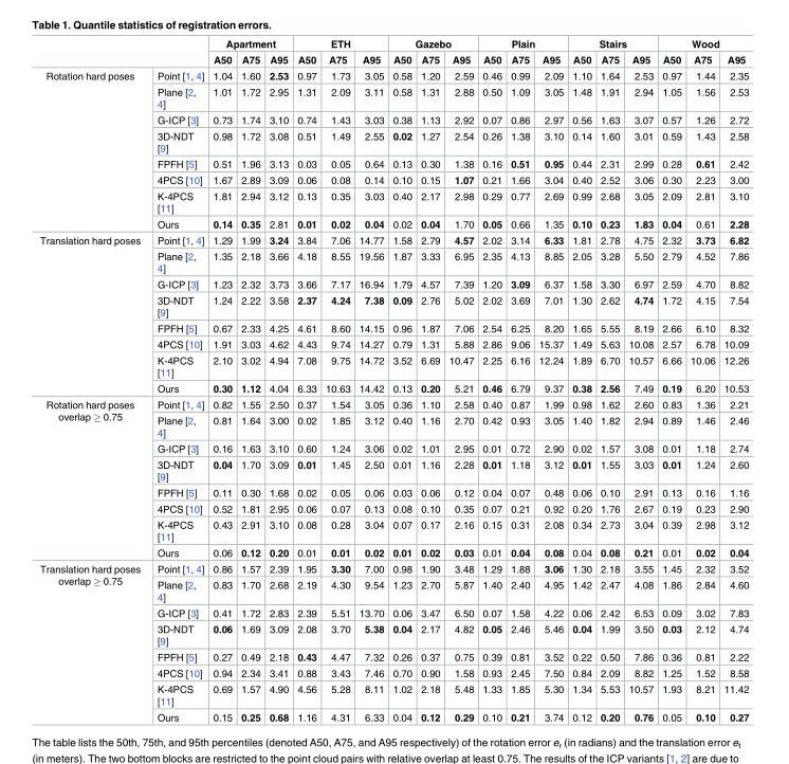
<table><thead><tr><td rowspan="2"></td><td rowspan="2"></td><td colspan="3">Apartment</td><td colspan="3">ETH</td><td colspan="3">Gazebo</td><td colspan="3">Plain</td><td colspan="3">Stairs</td><td colspan="3">Wood</td></tr><tr><td>A50</td><td>A75</td><td>A95</td><td>A50</td><td>A75</td><td>A95</td><td>A50</td><td>A75</td><td>A95</td><td>A50</td><td>A75</td><td>A95</td><td>A50</td><td>A75</td><td>A95</td><td>A50</td><td>A75</td><td>A95</td></tr></thead><tbody><tr><td rowspan="8">Rotation hard poses</td><td>Point [1, 4]</td><td>1.04</td><td>1.60</td><td>2.53</td><td>0.97</td><td>1.73</td><td>3.05</td><td>0.58</td><td>1.20</td><td>2.59</td><td>0.46</td><td>0.99</td><td>2.09</td><td>1.10</td><td>1.64</td><td>2.53</td><td>0.97</td><td>1.44</td><td>2.35</td></tr><tr><td>Plane [2, 4]</td><td>1.01</td><td>1.72</td><td>2.95</td><td>1.31</td><td>2.09</td><td>3.11</td><td>0.58</td><td>1.31</td><td>2.88</td><td>0.50</td><td>1.09</td><td>3.05</td><td>1.48</td><td>1.91</td><td>2.94</td><td>1.05</td><td>1.56</td><td>2.53</td></tr><tr><td>G-ICP [3]</td><td>0.73</td><td>1.74</td><td>3.10</td><td>0.74</td><td>1.43</td><td>3.03</td><td>0.38</td><td>1.13</td><td>2.92</td><td>0.07</td><td>0.86</td><td>2.97</td><td>0.56</td><td>1.63</td><td>3.07</td><td>0.57</td><td>1.26</td><td>2.72</td></tr><tr><td>3D-NDT [9]</td><td>0.98</td><td>1.72</td><td>3.08</td><td>0.51</td><td>1.49</td><td>2.55</td><td>0.02</td><td>1.27</td><td>2.54</td><td>0.26</td><td>1.38</td><td>3.10</td><td>0.14</td><td>1.60</td><td>3.01</td><td>0.59</td><td>1.43</td><td>2.58</td></tr><tr><td>FPFH [5]</td><td>0.51</td><td>1.96</td><td>3.13</td><td>0.03</td><td>0.05</td><td>0.64</td><td>0.13</td><td>0.30</td><td>1.38</td><td>0.16</td><td>0.51</td><td>0.95</td><td>0.44</td><td>2.31</td><td>2.99</td><td>0.28</td><td>0.61</td><td>2.42</td></tr><tr><td>4PCS [10]</td><td>1.67</td><td>2.89</td><td>3.09</td><td>0.06</td><td>0.08</td><td>0.14</td><td>0.10</td><td>0.15</td><td>1.07</td><td>0.21</td><td>1.66</td><td>3.04</td><td>0.40</td><td>2.52</td><td>3.06</td><td>0.30</td><td>2.23</td><td>3.00</td></tr><tr><td>K-4PCS [11]</td><td>1.81</td><td>2.94</td><td>3.12</td><td>0.13</td><td>0.35</td><td>3.03</td><td>0.40</td><td>2.17</td><td>2.98</td><td>0.29</td><td>0.77</td><td>2.69</td><td>0.99</td><td>2.68</td><td>3.05</td><td>2.09</td><td>2.81</td><td>3.10</td></tr><tr><td>Ours</td><td>0.14</td><td>0.35</td><td>2.81</td><td>0.01</td><td>0.02</td><td>0.04</td><td>0.02</td><td>0.04</td><td>1.70</td><td>0.05</td><td>0.66</td><td>1.35</td><td>0.10</td><td>0.23</td><td>1.83</td><td>0.04</td><td>0.61</td><td>2.28</td></tr><tr><td rowspan="8">Translation hard poses</td><td>Point [1, 4]</td><td>1.29</td><td>1.99</td><td>3.24</td><td>3.84</td><td>7.06</td><td>14.77</td><td>1.58</td><td>2.79</td><td>4.57</td><td>2.02</td><td>3.14</td><td>6.33</td><td>1.81</td><td>2.78</td><td>4.75</td><td>2.32</td><td>3.73</td><td>6.82</td></tr><tr><td>Plane [2, 4]</td><td>1.35</td><td>2.18</td><td>3.66</td><td>4.18</td><td>8.55</td><td>19.56</td><td>1.87</td><td>3.33</td><td>6.95</td><td>2.35</td><td>4.13</td><td>8.85</td><td>2.05</td><td>3.28</td><td>5.50</td><td>2.79</td><td>4.52</td><td>7.86</td></tr><tr><td>G-ICP [3]</td><td>1.23</td><td>2.32</td><td>3.73</td><td>3.66</td><td>7.17</td><td>16.94</td><td>1.79</td><td>4.57</td><td>7.39</td><td>1.20</td><td>3.09</td><td>6.37</td><td>1.58</td><td>3.30</td><td>6.97</td><td>2.59</td><td>4.70</td><td>8.82</td></tr><tr><td>3D-NDT [9]</td><td>1.24</td><td>2.22</td><td>3.58</td><td>2.37</td><td>4.24</td><td>7.38</td><td>0.09</td><td>2.76</td><td>5.02</td><td>2.02</td><td>3.69</td><td>7.01</td><td>1.30</td><td>2.62</td><td>4.74</td><td>1.72</td><td>4.15</td><td>7.54</td></tr><tr><td>FPFH [5]</td><td>0.67</td><td>2.33</td><td>4.25</td><td>4.61</td><td>8.60</td><td>14.15</td><td>0.96</td><td>1.87</td><td>7.06</td><td>2.54</td><td>6.25</td><td>8.20</td><td>1.65</td><td>5.55</td><td>8.19</td><td>2.66</td><td>6.10</td><td>8.32</td></tr><tr><td>4PCS [10]</td><td>1.91</td><td>3.03</td><td>4.62</td><td>4.43</td><td>9.74</td><td>14.27</td><td>0.79</td><td>1.31</td><td>5.88</td><td>2.86</td><td>9.06</td><td>15.37</td><td>1.49</td><td>5.63</td><td>10.08</td><td>2.57</td><td>6.78</td><td>10.09</td></tr><tr><td>K-4PCS [11]</td><td>2.10</td><td>3.02</td><td>4.94</td><td>7.08</td><td>9.75</td><td>14.72</td><td>3.52</td><td>6.69</td><td>10.47</td><td>2.25</td><td>6.16</td><td>12.24</td><td>1.89</td><td>6.70</td><td>10.57</td><td>6.66</td><td>10.06</td><td>12.26</td></tr><tr><td>Ours</td><td>0.30</td><td>1.12</td><td>4.04</td><td>6.33</td><td>10.63</td><td>14.42</td><td>0.13</td><td>0.20</td><td>5.21</td><td>0.46</td><td>6.79</td><td>9.37</td><td>0.38</td><td>2.56</td><td>7.49</td><td>0.19</td><td>6.20</td><td>10.53</td></tr><tr><td rowspan="8">Rotation hard poses overlap ≥ 0.75</td><td>Point [1, 4]</td><td>0.82</td><td>1.55</td><td>2.50</td><td>0.37</td><td>1.54</td><td>3.05</td><td>0.36</td><td>1.10</td><td>2.58</td><td>0.40</td><td>0.87</td><td>1.99</td><td>0.98</td><td>1.62</td><td>2.60</td><td>0.83</td><td>1.36</td><td>2.21</td></tr><tr><td>Plane [2, 4]</td><td>0.81</td><td>1.64</td><td>3.00</td><td>0.02</td><td>1.85</td><td>3.12</td><td>0.40</td><td>1.16</td><td>2.70</td><td>0.42</td><td>0.93</td><td>3.05</td><td>1.40</td><td>1.82</td><td>2.94</td><td>0.89</td><td>1.46</td><td>2.46</td></tr><tr><td>G-ICP [3]</td><td>0.16</td><td>1.63</td><td>3.10</td><td>0.60</td><td>1.24</td><td>3.06</td><td>0.02</td><td>1.01</td><td>2.95</td><td>0.01</td><td>0.72</td><td>2.90</td><td>0.02</td><td>1.57</td><td>3.08</td><td>0.01</td><td>1.18</td><td>2.74</td></tr><tr><td>3D-NDT [9]</td><td>0.04</td><td>1.70</td><td>3.09</td><td>0.01</td><td>1.45</td><td>2.50</td><td>0.01</td><td>1.16</td><td>2.28</td><td>0.01</td><td>1.18</td><td>3.12</td><td>0.01</td><td>1.55</td><td>3.03</td><td>0.01</td><td>1.24</td><td>2.60</td></tr><tr><td>FPFH [5]</td><td>0.11</td><td>0.30</td><td>1.68</td><td>0.02</td><td>0.05</td><td>0.06</td><td>0.03</td><td>0.06</td><td>0.12</td><td>0.04</td><td>0.07</td><td>0.48</td><td>0.06</td><td>0.10</td><td>2.91</td><td>0.13</td><td>0.16</td><td>1.16</td></tr><tr><td>4PCS [10]</td><td>0.52</td><td>1.81</td><td>2.95</td><td>0.06</td><td>0.07</td><td>0.13</td><td>0.08</td><td>0.10</td><td>0.35</td><td>0.07</td><td>0.21</td><td>0.92</td><td>0.20</td><td>1.76</td><td>2.67</td><td>0.19</td><td>0.23</td><td>2.90</td></tr><tr><td>K-4PCS [11]</td><td>0.43</td><td>2.91</td><td>3.10</td><td>0.08</td><td>0.28</td><td>3.04</td><td>0.07</td><td>0.17</td><td>2.16</td><td>0.15</td><td>0.31</td><td>2.08</td><td>0.34</td><td>2.73</td><td>3.04</td><td>0.39</td><td>2.98</td><td>3.12</td></tr><tr><td>Ours</td><td>0.06</td><td>0.12</td><td>0.20</td><td>0.01</td><td>0.01</td><td>0.02</td><td>0.01</td><td>0.02</td><td>0.03</td><td>0.01</td><td>0.04</td><td>0.08</td><td>0.04</td><td>0.08</td><td>0.21</td><td>0.01</td><td>0.02</td><td>0.04</td></tr><tr><td rowspan="8">Translation hard poses overlap ≥ 0.75</td><td>Point [1, 4]</td><td>0.86</td><td>1.57</td><td>2.39</td><td>1.95</td><td>3.30</td><td>7.00</td><td>0.98</td><td>1.90</td><td>3.48</td><td>1.29</td><td>1.88</td><td>3.06</td><td>1.30</td><td>2.18</td><td>3.55</td><td>1.45</td><td>2.32</td><td>3.52</td></tr><tr><td>Plane [2, 4]</td><td>0.83</td><td>1.70</td><td>2.68</td><td>2.19</td><td>4.30</td><td>9.54</td><td>1.23</td><td>2.70</td><td>5.87</td><td>1.40</td><td>2.40</td><td>4.95</td><td>1.42</td><td>2.47</td><td>4.08</td><td>1.86</td><td>2.84</td><td>4.60</td></tr><tr><td>G-ICP [3]</td><td>0.41</td><td>1.72</td><td>2.83</td><td>2.39</td><td>5.51</td><td>13.70</td><td>0.06</td><td>3.47</td><td>6.50</td><td>0.07</td><td>1.58</td><td>4.22</td><td>0.06</td><td>2.42</td><td>6.53</td><td>0.09</td><td>3.02</td><td>7.83</td></tr><tr><td>3D-NDT [9]</td><td>0.06</td><td>1.69</td><td>3.09</td><td>2.08</td><td>3.70</td><td>5.38</td><td>0.04</td><td>2.17</td><td>4.82</td><td>0.05</td><td>2.46</td><td>5.46</td><td>0.04</td><td>1.99</td><td>3.50</td><td>0.03</td><td>2.12</td><td>4.74</td></tr><tr><td>FPFH [5]</td><td>0.27</td><td>0.49</td><td>2.18</td><td>0.43</td><td>4.47</td><td>7.32</td><td>0.26</td><td>0.37</td><td>0.75</td><td>0.39</td><td>0.81</td><td>3.52</td><td>0.22</td><td>0.50</td><td>7.86</td><td>0.36</td><td>0.81</td><td>2.22</td></tr><tr><td>4PCS [10]</td><td>0.94</td><td>2.34</td><td>3.41</td><td>0.88</td><td>3.43</td><td>7.46</td><td>0.70</td><td>0.90</td><td>1.58</td><td>0.93</td><td>2.45</td><td>7.50</td><td>0.84</td><td>2.09</td><td>8.82</td><td>1.25</td><td>1.52</td><td>8.58</td></tr><tr><td>K-4PCS [11]</td><td>0.69</td><td>1.57</td><td>4.90</td><td>4.56</td><td>5.28</td><td>8.11</td><td>1.02</td><td>2.18</td><td>5.48</td><td>1.33</td><td>1.85</td><td>5.30</td><td>1.34</td><td>5.53</td><td>10.57</td><td>1.93</td><td>8.21</td><td>11.42</td></tr><tr><td>Ours</td><td>0.15</td><td>0.25</td><td>0.68</td><td>1.16</td><td>4.31</td><td>6.33</td><td>0.04</td><td>0.12</td><td>0.29</td><td>0.10</td><td>0.21</td><td>3.74</td><td>0.12</td><td>0.20</td><td>0.76</td><td>0.05</td><td>0.10</td><td>0.27</td></tr></tbody></table>